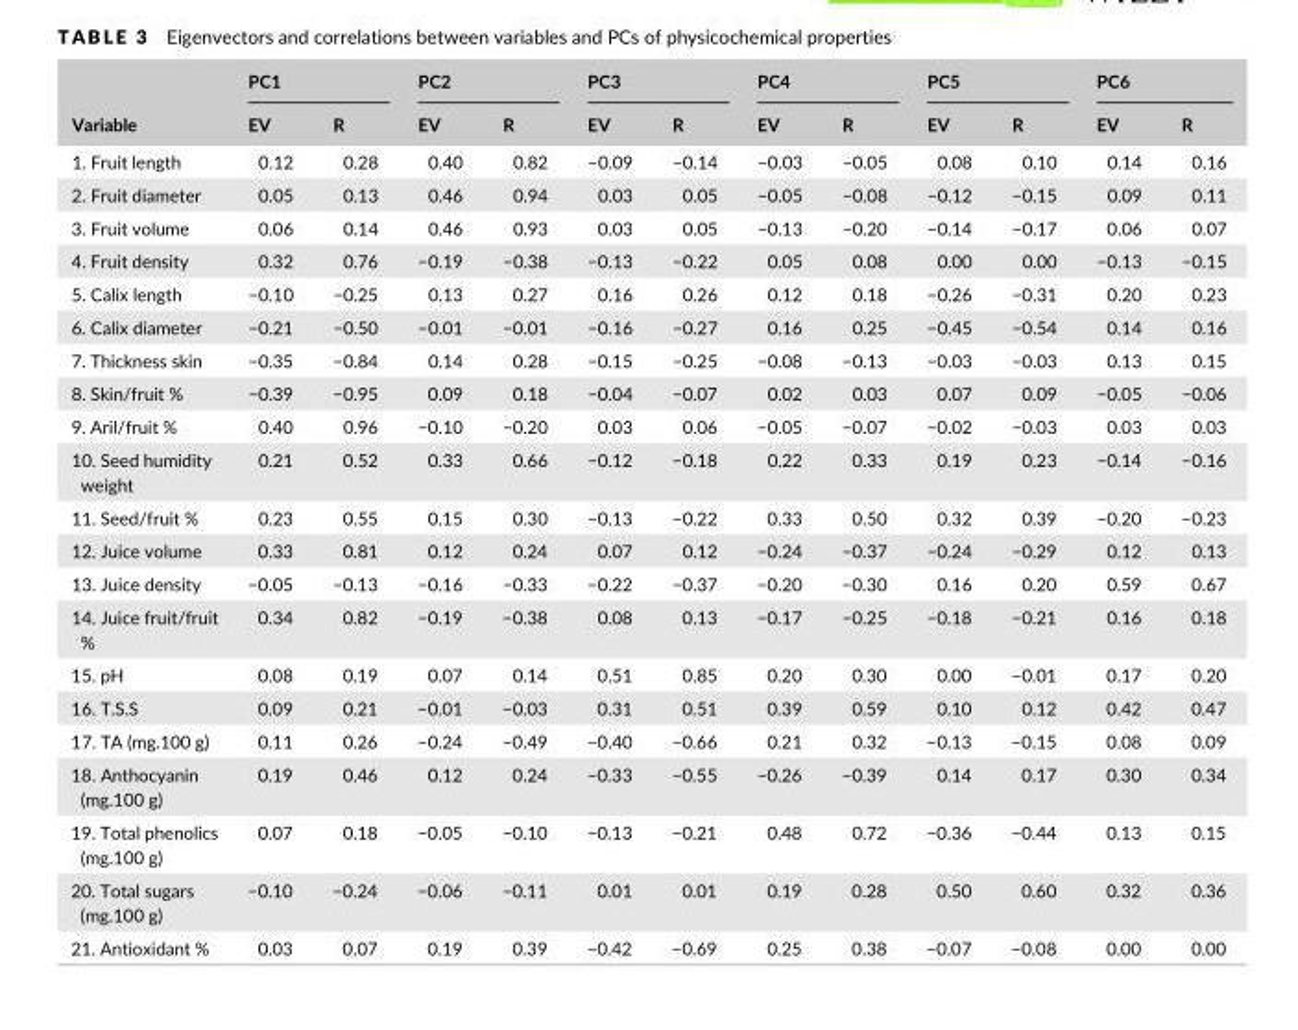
<table><thead><tr><td rowspan="2">Variable</td><td colspan="2">PC1</td><td colspan="2">PC2</td><td colspan="2">PC3</td><td colspan="2">PC4</td><td colspan="2">PC5</td><td colspan="2">PC6</td></tr><tr><td>EV</td><td>R</td><td>EV</td><td>R</td><td>EV</td><td>R</td><td>EV</td><td>R</td><td>EV</td><td>R</td><td>EV</td><td>R</td></tr></thead><tbody><tr><td>1. Fruit length</td><td>0.12</td><td>0.28</td><td>0.40</td><td>0.82</td><td>−0.09</td><td>−0.14</td><td>−0.03</td><td>−0.05</td><td>0.08</td><td>0.10</td><td>0.14</td><td>0.16</td></tr><tr><td>2. Fruit diameter</td><td>0.05</td><td>0.13</td><td>0.46</td><td>0.94</td><td>0.03</td><td>0.05</td><td>−0.05</td><td>−0.08</td><td>−0.12</td><td>−0.15</td><td>0.09</td><td>0.11</td></tr><tr><td>3. Fruit volume</td><td>0.06</td><td>0.14</td><td>0.46</td><td>0.93</td><td>0.03</td><td>0.05</td><td>−0.13</td><td>−0.20</td><td>−0.14</td><td>−0.17</td><td>0.06</td><td>0.07</td></tr><tr><td>4. Fruit density</td><td>0.32</td><td>0.76</td><td>−0.19</td><td>−0.38</td><td>−0.13</td><td>−0.22</td><td>0.05</td><td>0.08</td><td>0.00</td><td>0.00</td><td>−0.13</td><td>−0.15</td></tr><tr><td>5. Calix length</td><td>−0.10</td><td>−0.25</td><td>0.13</td><td>0.27</td><td>0.16</td><td>0.26</td><td>0.12</td><td>0.18</td><td>−0.26</td><td>−0.31</td><td>0.20</td><td>0.23</td></tr><tr><td>6. Calix diameter</td><td>−0.21</td><td>−0.50</td><td>−0.01</td><td>−0.01</td><td>−0.16</td><td>−0.27</td><td>0.16</td><td>0.25</td><td>−0.45</td><td>−0.54</td><td>0.14</td><td>0.16</td></tr><tr><td>7. Thickness skin</td><td>−0.35</td><td>−0.84</td><td>0.14</td><td>0.28</td><td>−0.15</td><td>−0.25</td><td>−0.08</td><td>−0.13</td><td>−0.03</td><td>−0.03</td><td>0.13</td><td>0.15</td></tr><tr><td>8. Skin/fruit %</td><td>−0.39</td><td>−0.95</td><td>0.09</td><td>0.18</td><td>−0.04</td><td>−0.07</td><td>0.02</td><td>0.03</td><td>0.07</td><td>0.09</td><td>−0.05</td><td>−0.06</td></tr><tr><td>9. Aril/fruit %</td><td>0.40</td><td>0.96</td><td>−0.10</td><td>−0.20</td><td>0.03</td><td>0.06</td><td>−0.05</td><td>−0.07</td><td>−0.02</td><td>−0.03</td><td>0.03</td><td>0.03</td></tr><tr><td>10. Seed humidity weight</td><td>0.21</td><td>0.52</td><td>0.33</td><td>0.66</td><td>−0.12</td><td>−0.18</td><td>0.22</td><td>0.33</td><td>0.19</td><td>0.23</td><td>−0.14</td><td>−0.16</td></tr><tr><td>11. Seed/fruit %</td><td>0.23</td><td>0.55</td><td>0.15</td><td>0.30</td><td>−0.13</td><td>−0.22</td><td>0.33</td><td>0.50</td><td>0.32</td><td>0.39</td><td>−0.20</td><td>−0.23</td></tr><tr><td>12. Juice volume</td><td>0.33</td><td>0.81</td><td>0.12</td><td>0.24</td><td>0.07</td><td>0.12</td><td>−0.24</td><td>−0.37</td><td>−0.24</td><td>−0.29</td><td>0.12</td><td>0.13</td></tr><tr><td>13. Juice density</td><td>−0.05</td><td>−0.13</td><td>−0.16</td><td>−0.33</td><td>−0.22</td><td>−0.37</td><td>−0.20</td><td>−0.30</td><td>0.16</td><td>0.20</td><td>0.59</td><td>0.67</td></tr><tr><td>14. Juice fruit/fruit %</td><td>0.34</td><td>0.82</td><td>−0.19</td><td>−0.38</td><td>0.08</td><td>0.13</td><td>−0.17</td><td>−0.25</td><td>−0.18</td><td>−0.21</td><td>0.16</td><td>0.18</td></tr><tr><td>15. pH</td><td>0.08</td><td>0.19</td><td>0.07</td><td>0.14</td><td>0.51</td><td>0.85</td><td>0.20</td><td>0.30</td><td>0.00</td><td>−0.01</td><td>0.17</td><td>0.20</td></tr><tr><td>16. T.S.S</td><td>0.09</td><td>0.21</td><td>−0.01</td><td>−0.03</td><td>0.31</td><td>0.51</td><td>0.39</td><td>0.59</td><td>0.10</td><td>0.12</td><td>0.42</td><td>0.47</td></tr><tr><td>17. TA (mg.100 g)</td><td>0.11</td><td>0.26</td><td>−0.24</td><td>−0.49</td><td>−0.40</td><td>−0.66</td><td>0.21</td><td>0.32</td><td>−0.13</td><td>−0.15</td><td>0.08</td><td>0.09</td></tr><tr><td>18. Anthocyanin (mg.100 g)</td><td>0.19</td><td>0.46</td><td>0.12</td><td>0.24</td><td>−0.33</td><td>−0.55</td><td>−0.26</td><td>−0.39</td><td>0.14</td><td>0.17</td><td>0.30</td><td>0.34</td></tr><tr><td>19. Total phenolics (mg.100 g)</td><td>0.07</td><td>0.18</td><td>−0.05</td><td>−0.10</td><td>−0.13</td><td>−0.21</td><td>0.48</td><td>0.72</td><td>−0.36</td><td>−0.44</td><td>0.13</td><td>0.15</td></tr><tr><td>20. Total sugars (mg.100 g)</td><td>−0.10</td><td>−0.24</td><td>−0.06</td><td>−0.11</td><td>0.01</td><td>0.01</td><td>0.19</td><td>0.28</td><td>0.50</td><td>0.60</td><td>0.32</td><td>0.36</td></tr><tr><td>21. Antioxidant %</td><td>0.03</td><td>0.07</td><td>0.19</td><td>0.39</td><td>−0.42</td><td>−0.69</td><td>0.25</td><td>0.38</td><td>−0.07</td><td>−0.08</td><td>0.00</td><td>0.00</td></tr></tbody></table>